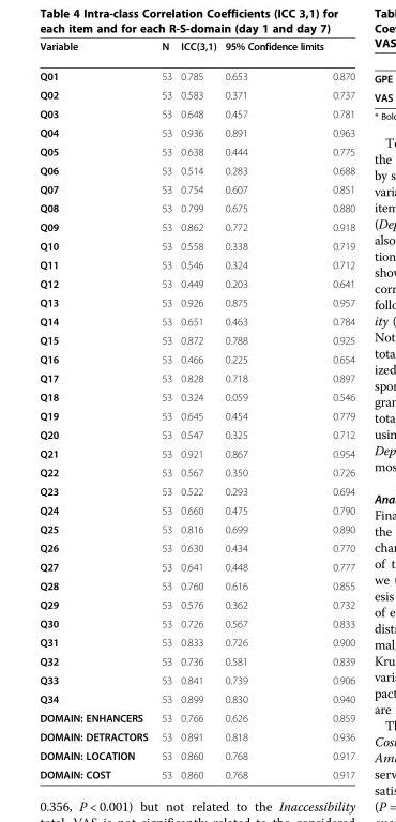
<table><thead><tr><td>Variable</td><td>N</td><td>ICC(3,1)</td><td>95% Confidence limits</td><td></td></tr></thead><tbody><tr><td>Q01</td><td>53</td><td>0.785</td><td>0.653</td><td>0.870</td></tr><tr><td>Q02</td><td>53</td><td>0.583</td><td>0.371</td><td>0.737</td></tr><tr><td>Q03</td><td>53</td><td>0.648</td><td>0.457</td><td>0.781</td></tr><tr><td>Q04</td><td>53</td><td>0.936</td><td>0.891</td><td>0.963</td></tr><tr><td>Q05</td><td>53</td><td>0.638</td><td>0.444</td><td>0.775</td></tr><tr><td>Q06</td><td>53</td><td>0.514</td><td>0.283</td><td>0.688</td></tr><tr><td>Q07</td><td>53</td><td>0.754</td><td>0.607</td><td>0.851</td></tr><tr><td>Q08</td><td>53</td><td>0.799</td><td>0.675</td><td>0.880</td></tr><tr><td>Q09</td><td>53</td><td>0.862</td><td>0.772</td><td>0.918</td></tr><tr><td>Q10</td><td>53</td><td>0.558</td><td>0.338</td><td>0.719</td></tr><tr><td>Q11</td><td>53</td><td>0.546</td><td>0.324</td><td>0.712</td></tr><tr><td>Q12</td><td>53</td><td>0.449</td><td>0.203</td><td>0.641</td></tr><tr><td>Q13</td><td>53</td><td>0.926</td><td>0.875</td><td>0.957</td></tr><tr><td>Q14</td><td>53</td><td>0.651</td><td>0.463</td><td>0.784</td></tr><tr><td>Q15</td><td>53</td><td>0.872</td><td>0.788</td><td>0.925</td></tr><tr><td>Q16</td><td>53</td><td>0.466</td><td>0.225</td><td>0.654</td></tr><tr><td>Q17</td><td>53</td><td>0.828</td><td>0.718</td><td>0.897</td></tr><tr><td>Q18</td><td>53</td><td>0.324</td><td>0.059</td><td>0.546</td></tr><tr><td>Q19</td><td>53</td><td>0.645</td><td>0.454</td><td>0.779</td></tr><tr><td>Q20</td><td>53</td><td>0.547</td><td>0.325</td><td>0.712</td></tr><tr><td>Q21</td><td>53</td><td>0.921</td><td>0.867</td><td>0.954</td></tr><tr><td>Q22</td><td>53</td><td>0.567</td><td>0.350</td><td>0.726</td></tr><tr><td>Q23</td><td>53</td><td>0.522</td><td>0.293</td><td>0.694</td></tr><tr><td>Q24</td><td>53</td><td>0.660</td><td>0.475</td><td>0.790</td></tr><tr><td>Q25</td><td>53</td><td>0.816</td><td>0.699</td><td>0.890</td></tr><tr><td>Q26</td><td>53</td><td>0.630</td><td>0.434</td><td>0.770</td></tr><tr><td>Q27</td><td>53</td><td>0.641</td><td>0.448</td><td>0.777</td></tr><tr><td>Q28</td><td>53</td><td>0.760</td><td>0.616</td><td>0.855</td></tr><tr><td>Q29</td><td>53</td><td>0.576</td><td>0.362</td><td>0.732</td></tr><tr><td>Q30</td><td>53</td><td>0.726</td><td>0.567</td><td>0.833</td></tr><tr><td>Q31</td><td>53</td><td>0.833</td><td>0.726</td><td>0.900</td></tr><tr><td>Q32</td><td>53</td><td>0.736</td><td>0.581</td><td>0.839</td></tr><tr><td>Q33</td><td>53</td><td>0.841</td><td>0.739</td><td>0.906</td></tr><tr><td>Q34</td><td>53</td><td>0.899</td><td>0.830</td><td>0.940</td></tr><tr><td>DOMAIN: ENHANCERS</td><td>53</td><td>0.766</td><td>0.626</td><td>0.859</td></tr><tr><td>DOMAIN: DETRACTORS</td><td>53</td><td>0.891</td><td>0.818</td><td>0.936</td></tr><tr><td>DOMAIN: LOCATION</td><td>53</td><td>0.860</td><td>0.768</td><td>0.917</td></tr><tr><td>DOMAIN: COST</td><td>53</td><td>0.860</td><td>0.768</td><td>0.917</td></tr></tbody></table>